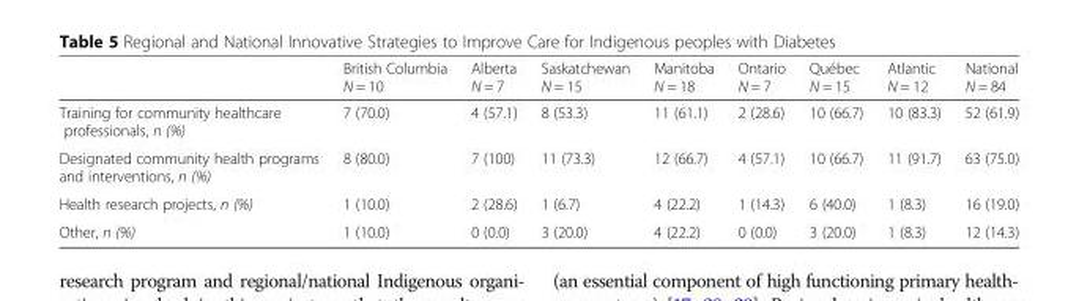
<table><thead><tr><td></td><td>British Columbia N = 10</td><td>Alberta N = 7</td><td>Saskatchewan N = 15</td><td>Manitoba N = 18</td><td>Ontario N = 7</td><td>Québec N = 15</td><td>Atlantic N = 12</td><td>National N = 84</td></tr></thead><tbody><tr><td>Training for community healthcare professionals, n (%)</td><td>7 (70.0)</td><td>4 (57.1)</td><td>8 (53.3)</td><td>11 (61.1)</td><td>2 (28.6)</td><td>10 (66.7)</td><td>10 (83.3)</td><td>52 (61.9)</td></tr><tr><td>Designated community health programs and interventions, n (%)</td><td>8 (80.0)</td><td>7 (100)</td><td>11 (73.3)</td><td>12 (66.7)</td><td>4 (57.1)</td><td>10 (66.7)</td><td>11 (91.7)</td><td>63 (75.0)</td></tr><tr><td>Health research projects, n (%)</td><td>1 (10.0)</td><td>2 (28.6)</td><td>1 (6.7)</td><td>4 (22.2)</td><td>1 (14.3)</td><td>6 (40.0)</td><td>1 (8.3)</td><td>16 (19.0)</td></tr><tr><td>Other, n (%)</td><td>1 (10.0)</td><td>0 (0.0)</td><td>3 (20.0)</td><td>4 (22.2)</td><td>0 (0.0)</td><td>3 (20.0)</td><td>1 (8.3)</td><td>12 (14.3)</td></tr></tbody></table>